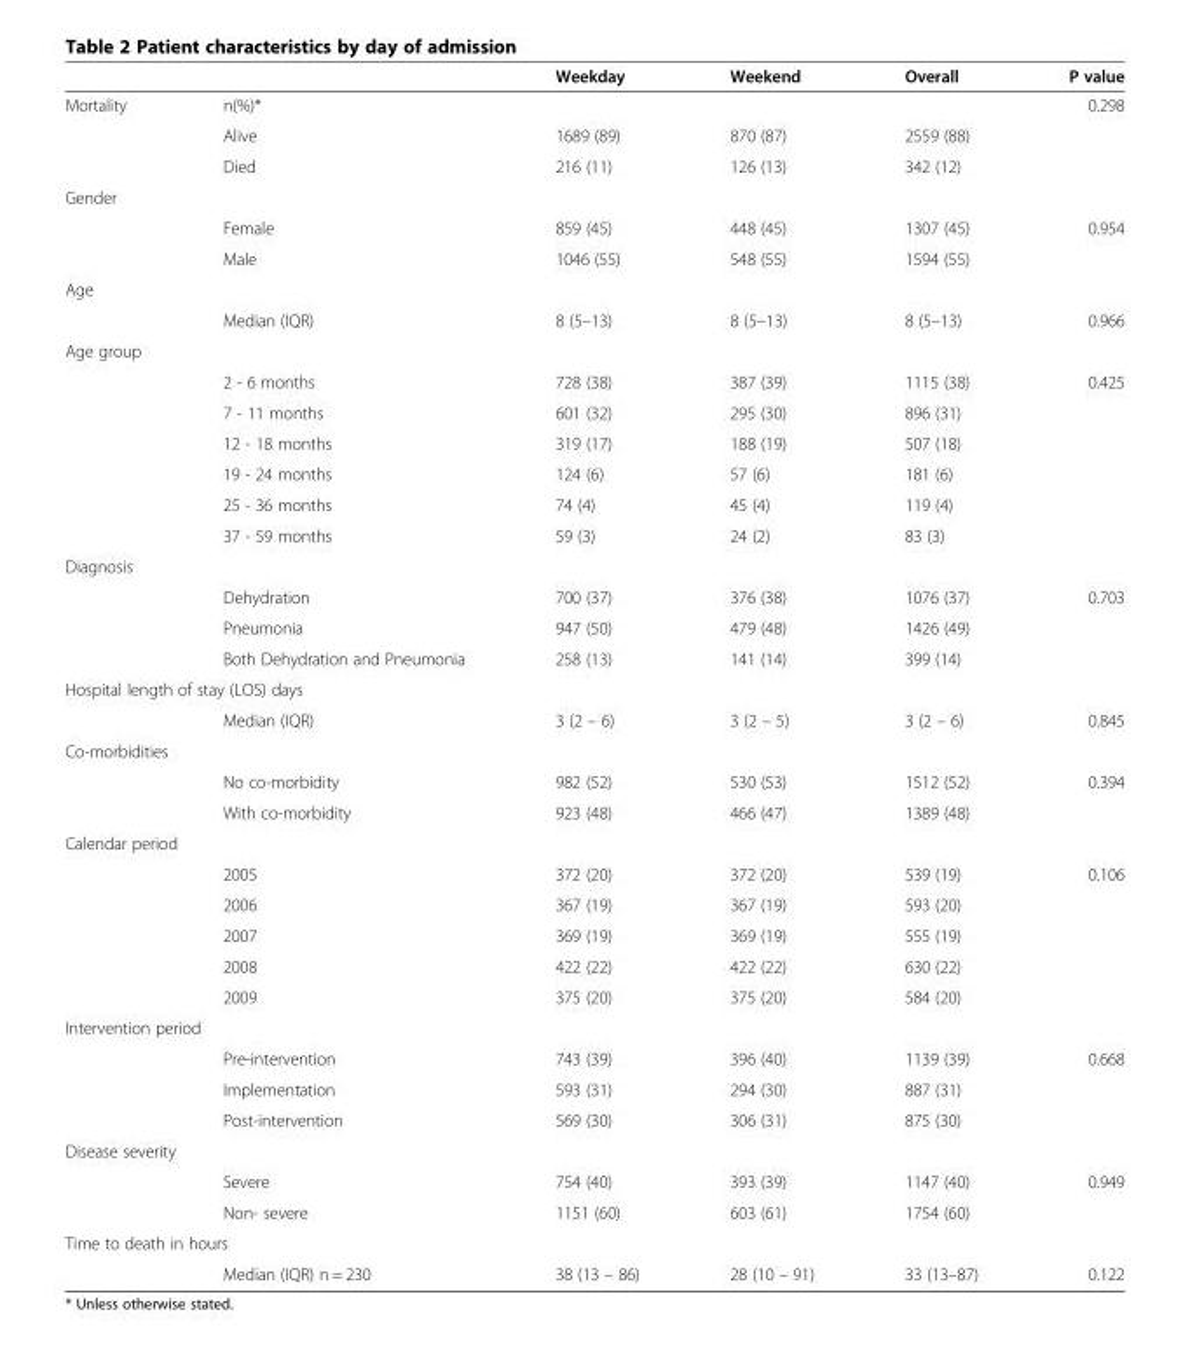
<table><thead><tr><td></td><td></td><td>Weekday</td><td>Weekend</td><td>Overall</td><td>P value</td></tr></thead><tbody><tr><td rowspan="3">Mortality</td><td>n(%)*</td><td></td><td></td><td></td><td>0.298</td></tr><tr><td>Alive</td><td>1689 (89)</td><td>870 (87)</td><td>2559 (88)</td><td></td></tr><tr><td>Died</td><td>216 (11)</td><td>126 (13)</td><td>342 (12)</td><td></td></tr><tr><td colspan="6">Gender</td></tr><tr><td></td><td>Female</td><td>859 (45)</td><td>448 (45)</td><td>1307 (45)</td><td>0.954</td></tr><tr><td></td><td>Male</td><td>1046 (55)</td><td>548 (55)</td><td>1594 (55)</td><td></td></tr><tr><td colspan="6">Age</td></tr><tr><td></td><td>Median (IQR)</td><td>8 (5–13)</td><td>8 (5–13)</td><td>8 (5–13)</td><td>0.966</td></tr><tr><td colspan="6">Age group</td></tr><tr><td></td><td>2 - 6 months</td><td>728 (38)</td><td>387 (39)</td><td>1115 (38)</td><td>0.425</td></tr><tr><td></td><td>7 - 11 months</td><td>601 (32)</td><td>295 (30)</td><td>896 (31)</td><td></td></tr><tr><td></td><td>12 - 18 months</td><td>319 (17)</td><td>188 (19)</td><td>507 (18)</td><td></td></tr><tr><td></td><td>19 - 24 months</td><td>124 (6)</td><td>57 (6)</td><td>181 (6)</td><td></td></tr><tr><td></td><td>25 - 36 months</td><td>74 (4)</td><td>45 (4)</td><td>119 (4)</td><td></td></tr><tr><td></td><td>37 - 59 months</td><td>59 (3)</td><td>24 (2)</td><td>83 (3)</td><td></td></tr><tr><td colspan="6">Diagnosis</td></tr><tr><td></td><td>Dehydration</td><td>700 (37)</td><td>376 (38)</td><td>1076 (37)</td><td>0.703</td></tr><tr><td></td><td>Pneumonia</td><td>947 (50)</td><td>479 (48)</td><td>1426 (49)</td><td></td></tr><tr><td></td><td>Both Dehydration and Pneumonia</td><td>258 (13)</td><td>141 (14)</td><td>399 (14)</td><td></td></tr><tr><td colspan="6">Hospital length of stay (LOS) days</td></tr><tr><td></td><td>Median (IQR)</td><td>3 (2 – 6)</td><td>3 (2 – 5)</td><td>3 (2 – 6)</td><td>0.845</td></tr><tr><td colspan="6">Co-morbidities</td></tr><tr><td></td><td>No co-morbidity</td><td>982 (52)</td><td>530 (53)</td><td>1512 (52)</td><td>0.394</td></tr><tr><td></td><td>With co-morbidity</td><td>923 (48)</td><td>466 (47)</td><td>1389 (48)</td><td></td></tr><tr><td colspan="6">Calendar period</td></tr><tr><td></td><td>2005</td><td>372 (20)</td><td>372 (20)</td><td>539 (19)</td><td>0.106</td></tr><tr><td></td><td>2006</td><td>367 (19)</td><td>367 (19)</td><td>593 (20)</td><td></td></tr><tr><td></td><td>2007</td><td>369 (19)</td><td>369 (19)</td><td>555 (19)</td><td></td></tr><tr><td></td><td>2008</td><td>422 (22)</td><td>422 (22)</td><td>630 (22)</td><td></td></tr><tr><td></td><td>2009</td><td>375 (20)</td><td>375 (20)</td><td>584 (20)</td><td></td></tr><tr><td colspan="6">Intervention period</td></tr><tr><td></td><td>Pre-intervention</td><td>743 (39)</td><td>396 (40)</td><td>1139 (39)</td><td>0.668</td></tr><tr><td></td><td>Implementation</td><td>593 (31)</td><td>294 (30)</td><td>887 (31)</td><td></td></tr><tr><td></td><td>Post-intervention</td><td>569 (30)</td><td>306 (31)</td><td>875 (30)</td><td></td></tr><tr><td colspan="6">Disease severity</td></tr><tr><td></td><td>Severe</td><td>754 (40)</td><td>393 (39)</td><td>1147 (40)</td><td>0.949</td></tr><tr><td></td><td>Non- severe</td><td>1151 (60)</td><td>603 (61)</td><td>1754 (60)</td><td></td></tr><tr><td colspan="6">Time to death in hours</td></tr><tr><td></td><td>Median (IQR) n = 230</td><td>38 (13 – 86)</td><td>28 (10 – 91)</td><td>33 (13–87)</td><td>0.122</td></tr></tbody></table>